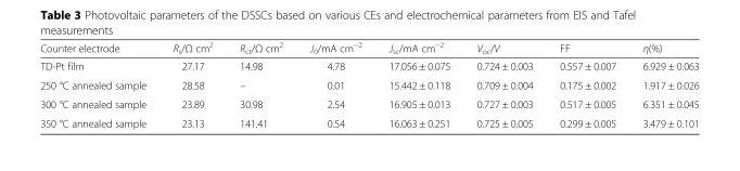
<table><thead><tr><td>Counter electrode</td><td>R<sub>s</sub>/Ω cm<sup>2</sup></td><td>R<sub>ct</sub>/Ω cm<sup>2</sup></td><td>J<sub>0</sub>/mA cm<sup>−2</sup></td><td>J<sub>sc</sub>/mA cm<sup>−2</sup></td><td>V<sub>oc</sub>/V</td><td>FF</td><td>η(%)</td></tr></thead><tbody><tr><td>TD-Pt film</td><td>27.17</td><td>14.98</td><td>4.78</td><td>17.056 ± 0.075</td><td>0.724 ± 0.003</td><td>0.557 ± 0.007</td><td>6.929 ± 0.063</td></tr><tr><td>250 °C annealed sample</td><td>28.58</td><td>–</td><td>0.01</td><td>15.442 ± 0.118</td><td>0.709 ± 0.004</td><td>0.175 ± 0.002</td><td>1.917 ± 0.026</td></tr><tr><td>300 °C annealed sample</td><td>23.89</td><td>30.98</td><td>2.54</td><td>16.905 ± 0.013</td><td>0.727 ± 0.003</td><td>0.517 ± 0.005</td><td>6.351 ± 0.045</td></tr><tr><td>350 °C annealed sample</td><td>23.13</td><td>141.41</td><td>0.54</td><td>16.063 ± 0.251</td><td>0.725 ± 0.005</td><td>0.299 ± 0.005</td><td>3.479 ± 0.101</td></tr></tbody></table>